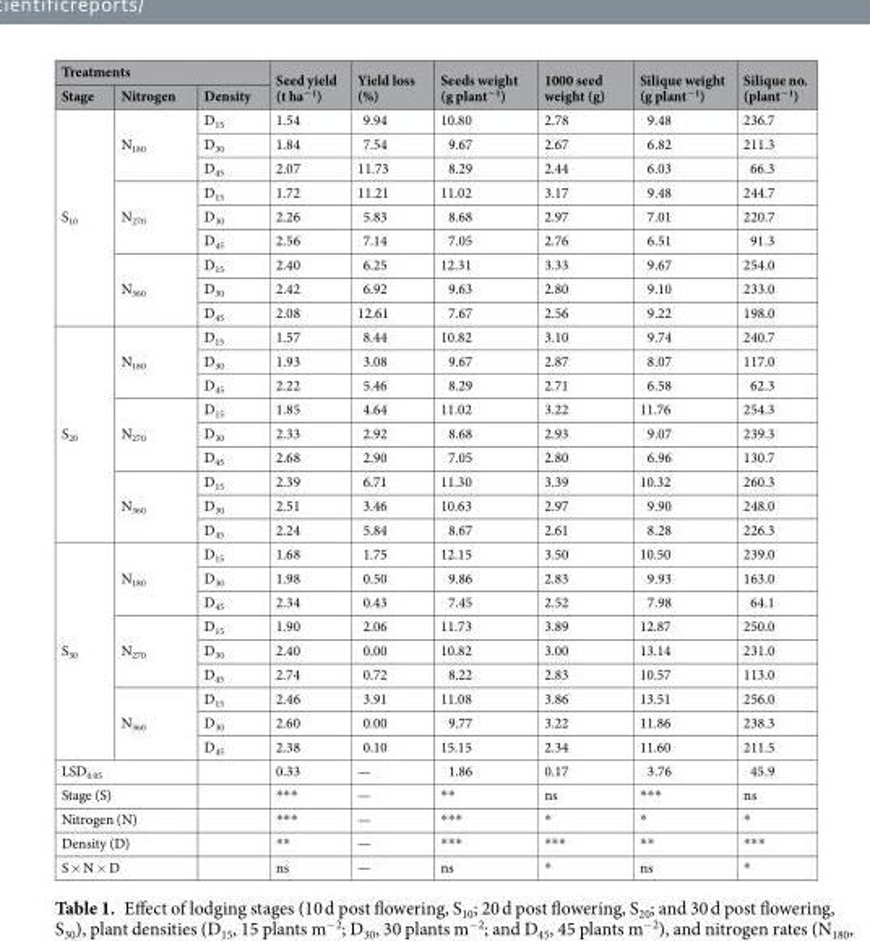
<table><thead><tr><td colspan="3">Treatments</td><td rowspan="2">Seed yield (t ha<sup>−1</sup>)</td><td rowspan="2">Yield loss (%)</td><td rowspan="2">Seeds weight (g plant<sup>−1</sup>)</td><td rowspan="2">1000 seed weight (g)</td><td rowspan="2">Silique weight (g plant<sup>−1</sup>)</td><td rowspan="2">Silique no. (plant<sup>−1</sup>)</td></tr><tr><td>Stage</td><td>Nitrogen</td><td>Density</td></tr></thead><tbody><tr><td rowspan="9">S<sub>10</sub></td><td rowspan="3">N<sub>180</sub></td><td>D<sub>15</sub></td><td>1.54</td><td>9.94</td><td>10.80</td><td>2.78</td><td>9.48</td><td>236.7</td></tr><tr><td>D<sub>30</sub></td><td>1.84</td><td>7.54</td><td>9.67</td><td>2.67</td><td>6.82</td><td>211.3</td></tr><tr><td>D<sub>45</sub></td><td>2.07</td><td>11.73</td><td>8.29</td><td>2.44</td><td>6.03</td><td>66.3</td></tr><tr><td rowspan="3">N<sub>270</sub></td><td>D<sub>15</sub></td><td>1.72</td><td>11.21</td><td>11.02</td><td>3.17</td><td>9.48</td><td>244.7</td></tr><tr><td>D<sub>30</sub></td><td>2.26</td><td>5.83</td><td>8.68</td><td>2.97</td><td>7.01</td><td>220.7</td></tr><tr><td>D<sub>45</sub></td><td>2.56</td><td>7.14</td><td>7.05</td><td>2.76</td><td>6.51</td><td>91.3</td></tr><tr><td rowspan="3">N<sub>360</sub></td><td>D<sub>15</sub></td><td>2.40</td><td>6.25</td><td>12.31</td><td>3.33</td><td>9.67</td><td>254.0</td></tr><tr><td>D<sub>30</sub></td><td>2.42</td><td>6.92</td><td>9.63</td><td>2.80</td><td>9.10</td><td>233.0</td></tr><tr><td>D<sub>45</sub></td><td>2.08</td><td>12.61</td><td>7.67</td><td>2.56</td><td>9.22</td><td>198.0</td></tr><tr><td rowspan="9">S<sub>20</sub></td><td rowspan="3">N<sub>180</sub></td><td>D<sub>15</sub></td><td>1.57</td><td>8.44</td><td>10.82</td><td>3.10</td><td>9.74</td><td>240.7</td></tr><tr><td>D<sub>30</sub></td><td>1.93</td><td>3.08</td><td>9.67</td><td>2.87</td><td>8.07</td><td>117.0</td></tr><tr><td>D<sub>45</sub></td><td>2.22</td><td>5.46</td><td>8.29</td><td>2.71</td><td>6.58</td><td>62.3</td></tr><tr><td rowspan="3">N<sub>270</sub></td><td>D<sub>15</sub></td><td>1.85</td><td>4.64</td><td>11.02</td><td>3.22</td><td>11.76</td><td>254.3</td></tr><tr><td>D<sub>30</sub></td><td>2.33</td><td>2.92</td><td>8.68</td><td>2.93</td><td>9.07</td><td>239.3</td></tr><tr><td>D<sub>45</sub></td><td>2.68</td><td>2.90</td><td>7.05</td><td>2.80</td><td>6.96</td><td>130.7</td></tr><tr><td rowspan="3">N<sub>360</sub></td><td>D<sub>15</sub></td><td>2.39</td><td>6.71</td><td>11.30</td><td>3.39</td><td>10.32</td><td>260.3</td></tr><tr><td>D<sub>30</sub></td><td>2.51</td><td>3.46</td><td>10.63</td><td>2.97</td><td>9.90</td><td>248.0</td></tr><tr><td>D<sub>45</sub></td><td>2.24</td><td>5.84</td><td>8.67</td><td>2.61</td><td>8.28</td><td>226.3</td></tr><tr><td rowspan="9">S<sub>30</sub></td><td rowspan="3">N<sub>180</sub></td><td>D<sub>15</sub></td><td>1.68</td><td>1.75</td><td>12.15</td><td>3.50</td><td>10.50</td><td>239.0</td></tr><tr><td>D<sub>30</sub></td><td>1.98</td><td>0.50</td><td>9.86</td><td>2.83</td><td>9.93</td><td>163.0</td></tr><tr><td>D<sub>45</sub></td><td>2.34</td><td>0.43</td><td>7.45</td><td>2.52</td><td>7.98</td><td>64.1</td></tr><tr><td rowspan="3">N<sub>270</sub></td><td>D<sub>15</sub></td><td>1.90</td><td>2.06</td><td>11.73</td><td>3.89</td><td>12.87</td><td>250.0</td></tr><tr><td>D<sub>30</sub></td><td>2.40</td><td>0.00</td><td>10.82</td><td>3.00</td><td>13.14</td><td>231.0</td></tr><tr><td>D<sub>45</sub></td><td>2.74</td><td>0.72</td><td>8.22</td><td>2.83</td><td>10.57</td><td>113.0</td></tr><tr><td rowspan="3">N<sub>360</sub></td><td>D<sub>15</sub></td><td>2.46</td><td>3.91</td><td>11.08</td><td>3.86</td><td>13.51</td><td>256.0</td></tr><tr><td>D<sub>30</sub></td><td>2.60</td><td>0.00</td><td>9.77</td><td>3.22</td><td>11.86</td><td>238.3</td></tr><tr><td>D<sub>45</sub></td><td>2.38</td><td>0.10</td><td>15.15</td><td>2.34</td><td>11.60</td><td>211.5</td></tr><tr><td colspan="2">LSD<sub>0.05</sub></td><td></td><td>0.33</td><td>—</td><td>1.86</td><td>0.17</td><td>3.76</td><td>45.9</td></tr><tr><td colspan="2">Stage (S)</td><td></td><td>***</td><td>—</td><td>**</td><td>ns</td><td>***</td><td>ns</td></tr><tr><td colspan="2">Nitrogen (N)</td><td></td><td>***</td><td>—</td><td>***</td><td>*</td><td>*</td><td>*</td></tr><tr><td colspan="2">Density (D)</td><td></td><td>**</td><td>—</td><td>***</td><td>***</td><td>**</td><td>***</td></tr><tr><td colspan="2">S × N × D</td><td></td><td>ns</td><td>—</td><td>ns</td><td>*</td><td>ns</td><td>*</td></tr></tbody></table>